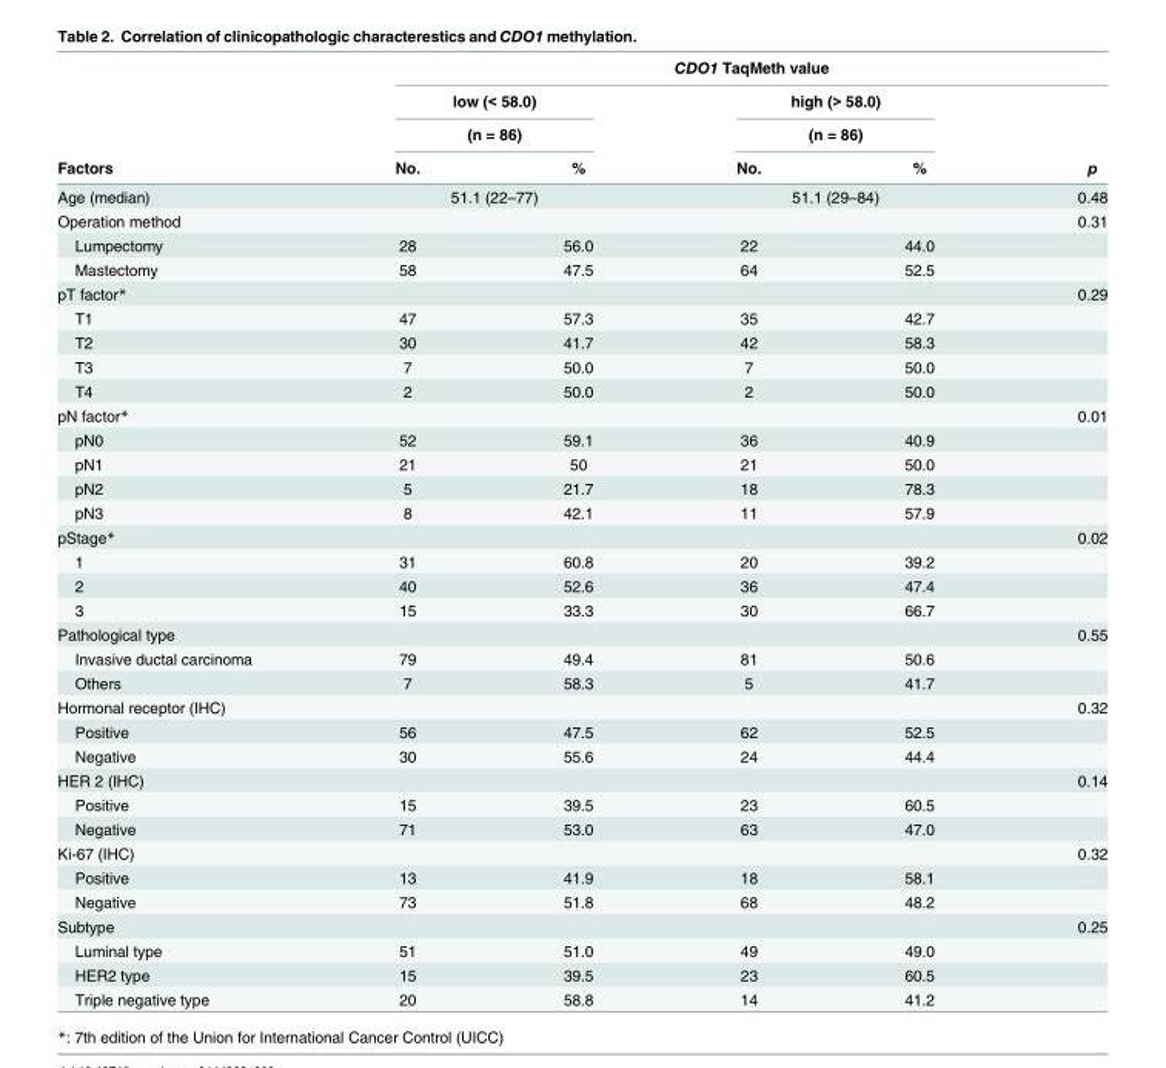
<table><thead><tr><td rowspan="4">Factors</td><td colspan="5">CDO1 TaqMeth value</td></tr><tr><td rowspan="2" colspan="2">low (&lt; 58.0) (n = 86)</td><td rowspan="2" colspan="2">high (&gt; 58.0) (n = 86)</td><td rowspan="3">p</td></tr><tr></tr><tr><td>No.</td><td>%</td><td>No.</td><td>%</td></tr></thead><tbody><tr><td>Age (median)</td><td colspan="2">51.1 (22–77)</td><td colspan="2">51.1 (29–84)</td><td>0.48</td></tr><tr><td>Operation method</td><td></td><td></td><td></td><td></td><td>0.31</td></tr><tr><td>Lumpectomy</td><td>28</td><td>56.0</td><td>22</td><td>44.0</td><td></td></tr><tr><td>Mastectomy</td><td>58</td><td>47.5</td><td>64</td><td>52.5</td><td></td></tr><tr><td>pT factor*</td><td></td><td></td><td></td><td></td><td>0.29</td></tr><tr><td>T1</td><td>47</td><td>57.3</td><td>35</td><td>42.7</td><td></td></tr><tr><td>T2</td><td>30</td><td>41.7</td><td>42</td><td>58.3</td><td></td></tr><tr><td>T3</td><td>7</td><td>50.0</td><td>7</td><td>50.0</td><td></td></tr><tr><td>T4</td><td>2</td><td>50.0</td><td>2</td><td>50.0</td><td></td></tr><tr><td>pN factor*</td><td></td><td></td><td></td><td></td><td>0.01</td></tr><tr><td>pN0</td><td>52</td><td>59.1</td><td>36</td><td>40.9</td><td></td></tr><tr><td>pN1</td><td>21</td><td>50</td><td>21</td><td>50.0</td><td></td></tr><tr><td>pN2</td><td>5</td><td>21.7</td><td>18</td><td>78.3</td><td></td></tr><tr><td>pN3</td><td>8</td><td>42.1</td><td>11</td><td>57.9</td><td></td></tr><tr><td>pStage*</td><td></td><td></td><td></td><td></td><td>0.02</td></tr><tr><td>1</td><td>31</td><td>60.8</td><td>20</td><td>39.2</td><td></td></tr><tr><td>2</td><td>40</td><td>52.6</td><td>36</td><td>47.4</td><td></td></tr><tr><td>3</td><td>15</td><td>33.3</td><td>30</td><td>66.7</td><td></td></tr><tr><td>Pathological type</td><td></td><td></td><td></td><td></td><td>0.55</td></tr><tr><td>Invasive ductal carcinoma</td><td>79</td><td>49.4</td><td>81</td><td>50.6</td><td></td></tr><tr><td>Others</td><td>7</td><td>58.3</td><td>5</td><td>41.7</td><td></td></tr><tr><td>Hormonal receptor (IHC)</td><td></td><td></td><td></td><td></td><td>0.32</td></tr><tr><td>Positive</td><td>56</td><td>47.5</td><td>62</td><td>52.5</td><td></td></tr><tr><td>Negative</td><td>30</td><td>55.6</td><td>24</td><td>44.4</td><td></td></tr><tr><td>HER 2 (IHC)</td><td></td><td></td><td></td><td></td><td>0.14</td></tr><tr><td>Positive</td><td>15</td><td>39.5</td><td>23</td><td>60.5</td><td></td></tr><tr><td>Negative</td><td>71</td><td>53.0</td><td>63</td><td>47.0</td><td></td></tr><tr><td>Ki-67 (IHC)</td><td></td><td></td><td></td><td></td><td>0.32</td></tr><tr><td>Positive</td><td>13</td><td>41.9</td><td>18</td><td>58.1</td><td></td></tr><tr><td>Negative</td><td>73</td><td>51.8</td><td>68</td><td>48.2</td><td></td></tr><tr><td>Subtype</td><td></td><td></td><td></td><td></td><td>0.25</td></tr><tr><td>Luminal type</td><td>51</td><td>51.0</td><td>49</td><td>49.0</td><td></td></tr><tr><td>HER2 type</td><td>15</td><td>39.5</td><td>23</td><td>60.5</td><td></td></tr><tr><td>Triple negative type</td><td>20</td><td>58.8</td><td>14</td><td>41.2</td><td></td></tr></tbody></table>